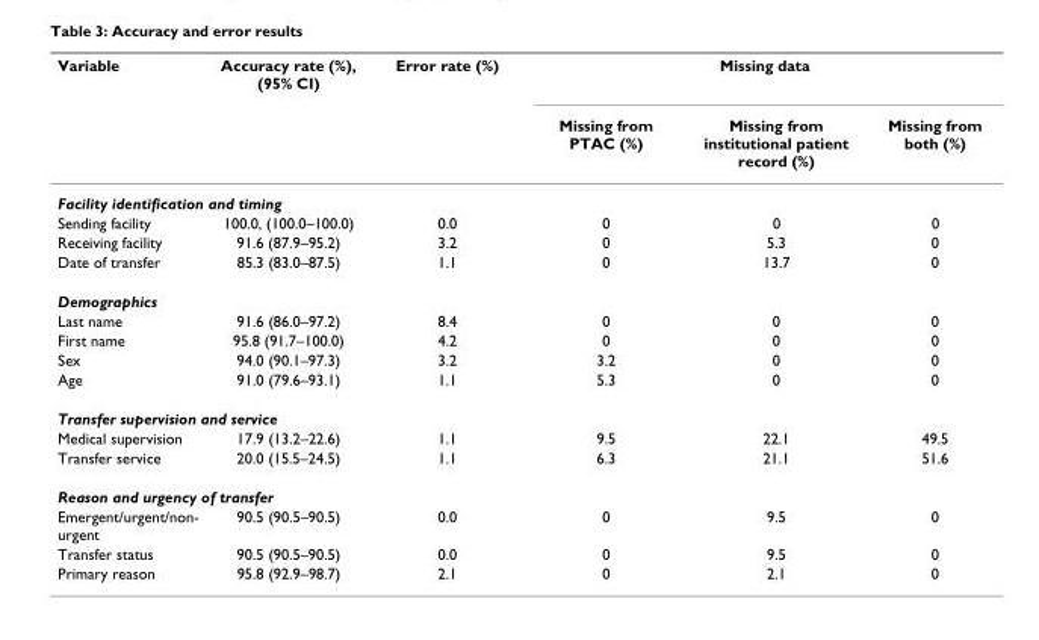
<table><thead><tr><td rowspan="2">Variable</td><td rowspan="2">Accuracy rate (%), (95% CI)</td><td rowspan="2">Error rate (%)</td><td colspan="3">Missing data</td></tr><tr><td>Missing from PTAC (%)</td><td>Missing from institutional patient record (%)</td><td>Missing from both (%)</td></tr></thead><tbody><tr><td colspan="6">Facility identification and timing</td></tr><tr><td>Sending facility</td><td>100.0, (100.0–100.0)</td><td>0.0</td><td>0</td><td>0</td><td>0</td></tr><tr><td>Receiving facility</td><td>91.6 (87.9–95.2)</td><td>3.2</td><td>0</td><td>5.3</td><td>0</td></tr><tr><td>Date of transfer</td><td>85.3 (83.0–87.5)</td><td>1.1</td><td>0</td><td>13.7</td><td>0</td></tr><tr><td colspan="6">Demographics</td></tr><tr><td>Last name</td><td>91.6 (86.0–97.2)</td><td>8.4</td><td>0</td><td>0</td><td>0</td></tr><tr><td>First name</td><td>95.8 (91.7–100.0)</td><td>4.2</td><td>0</td><td>0</td><td>0</td></tr><tr><td>Sex</td><td>94.0 (90.1–97.3)</td><td>3.2</td><td>3.2</td><td>0</td><td>0</td></tr><tr><td>Age</td><td>91.0 (79.6–93.1)</td><td>1.1</td><td>5.3</td><td>0</td><td>0</td></tr><tr><td colspan="6">Transfer supervision and service</td></tr><tr><td>Medical supervision</td><td>17.9 (13.2–22.6)</td><td>1.1</td><td>9.5</td><td>22.1</td><td>49.5</td></tr><tr><td>Transfer service</td><td>20.0 (15.5–24.5)</td><td>1.1</td><td>6.3</td><td>21.1</td><td>51.6</td></tr><tr><td colspan="6">Reason and urgency of transfer</td></tr><tr><td>Emergent/urgent/non- urgent</td><td>90.5 (90.5–90.5)</td><td>0.0</td><td>0</td><td>9.5</td><td>0</td></tr><tr><td>Transfer status</td><td>90.5 (90.5–90.5)</td><td>0.0</td><td>0</td><td>9.5</td><td>0</td></tr><tr><td>Primary reason</td><td>95.8 (92.9–98.7)</td><td>2.1</td><td>0</td><td>2.1</td><td>0</td></tr></tbody></table>